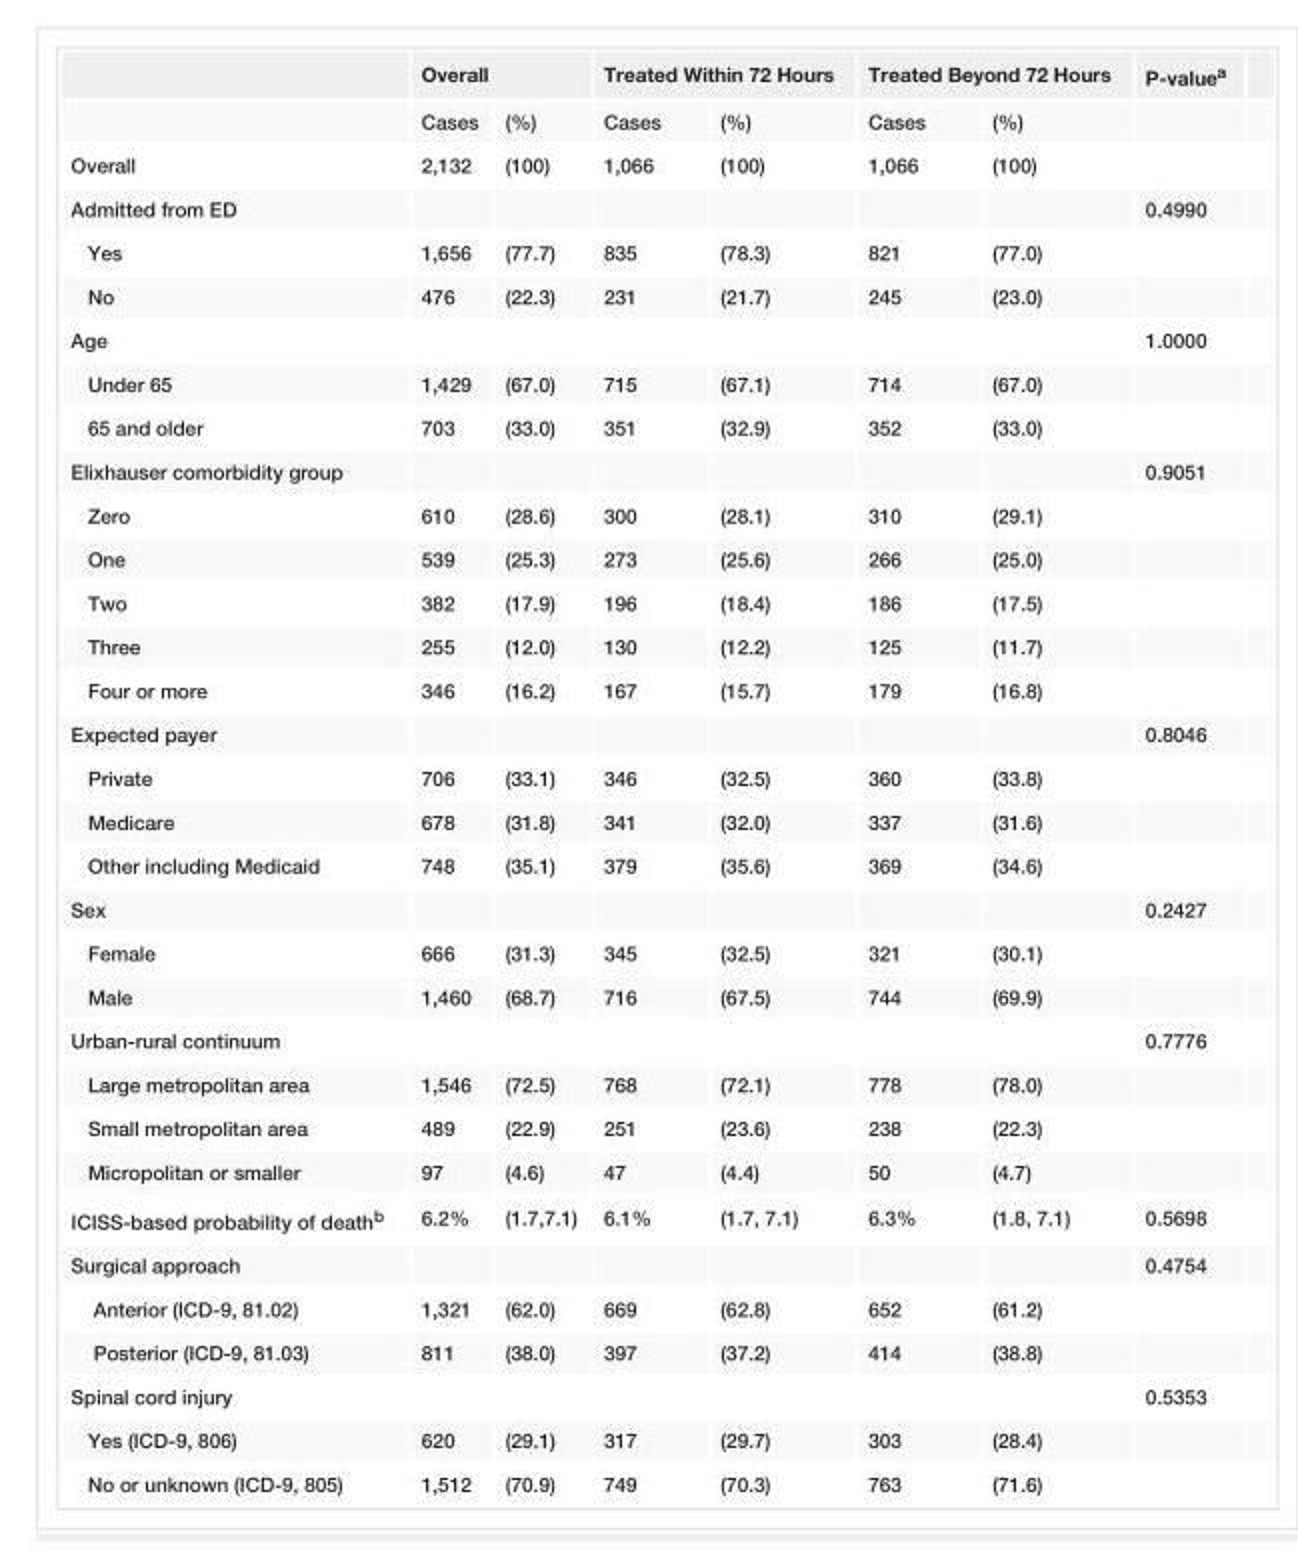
<table><thead><tr><td rowspan="2"></td><td colspan="2">Overall</td><td colspan="2">Treated Within 72 Hours</td><td colspan="2">Treated Beyond 72 Hours</td><td rowspan="2">P-value<sup>a</sup></td></tr><tr><td>Cases</td><td>(%)</td><td>Cases</td><td>(%)</td><td>Cases</td><td>(%)</td></tr></thead><tbody><tr><td>Overall</td><td>2,132</td><td>(100)</td><td>1,066</td><td>(100)</td><td>1,066</td><td>(100)</td><td></td></tr><tr><td>Admitted from ED</td><td></td><td></td><td></td><td></td><td></td><td></td><td>0.4990</td></tr><tr><td>Yes</td><td>1,656</td><td>(77.7)</td><td>835</td><td>(78.3)</td><td>821</td><td>(77.0)</td><td></td></tr><tr><td>No</td><td>476</td><td>(22.3)</td><td>231</td><td>(21.7)</td><td>245</td><td>(23.0)</td><td></td></tr><tr><td>Age</td><td></td><td></td><td></td><td></td><td></td><td></td><td>1.0000</td></tr><tr><td>Under 65</td><td>1,429</td><td>(67.0)</td><td>715</td><td>(67.1)</td><td>714</td><td>(67.0)</td><td></td></tr><tr><td>65 and older</td><td>703</td><td>(33.0)</td><td>351</td><td>(32.9)</td><td>352</td><td>(33.0)</td><td></td></tr><tr><td>Elixhauser comorbidity group</td><td></td><td></td><td></td><td></td><td></td><td></td><td>0.9051</td></tr><tr><td>Zero</td><td>610</td><td>(28.6)</td><td>300</td><td>(28.1)</td><td>310</td><td>(29.1)</td><td></td></tr><tr><td>One</td><td>539</td><td>(25.3)</td><td>273</td><td>(25.6)</td><td>266</td><td>(25.0)</td><td></td></tr><tr><td>Two</td><td>382</td><td>(17.9)</td><td>196</td><td>(18.4)</td><td>186</td><td>(17.5)</td><td></td></tr><tr><td>Three</td><td>255</td><td>(12.0)</td><td>130</td><td>(12.2)</td><td>125</td><td>(11.7)</td><td></td></tr><tr><td>Four or more</td><td>346</td><td>(16.2)</td><td>167</td><td>(15.7)</td><td>179</td><td>(16.8)</td><td></td></tr><tr><td>Expected payer</td><td></td><td></td><td></td><td></td><td></td><td></td><td>0.8046</td></tr><tr><td>Private</td><td>706</td><td>(33.1)</td><td>346</td><td>(32.5)</td><td>360</td><td>(33.8)</td><td></td></tr><tr><td>Medicare</td><td>678</td><td>(31.8)</td><td>341</td><td>(32.0)</td><td>337</td><td>(31.6)</td><td></td></tr><tr><td>Other including Medicaid</td><td>748</td><td>(35.1)</td><td>379</td><td>(35.6)</td><td>369</td><td>(34.6)</td><td></td></tr><tr><td>Sex</td><td></td><td></td><td></td><td></td><td></td><td></td><td>0.2427</td></tr><tr><td>Female</td><td>666</td><td>(31.3)</td><td>345</td><td>(32.5)</td><td>321</td><td>(30.1)</td><td></td></tr><tr><td>Male</td><td>1,460</td><td>(68.7)</td><td>716</td><td>(67.5)</td><td>744</td><td>(69.9)</td><td></td></tr><tr><td>Urban-rural continuum</td><td></td><td></td><td></td><td></td><td></td><td></td><td>0.7776</td></tr><tr><td>Large metropolitan area</td><td>1,546</td><td>(72.5)</td><td>768</td><td>(72.1)</td><td>778</td><td>(78.0)</td><td></td></tr><tr><td>Small metropolitan area</td><td>489</td><td>(22.9)</td><td>251</td><td>(23.6)</td><td>238</td><td>(22.3)</td><td></td></tr><tr><td>Micropolitan or smaller</td><td>97</td><td>(4.6)</td><td>47</td><td>(4.4)</td><td>50</td><td>(4.7)</td><td></td></tr><tr><td>ICISS-based probability of death<sup>b</sup></td><td>6.2%</td><td>(1.7,7.1)</td><td>6.1%</td><td>(1.7, 7.1)</td><td>6.3%</td><td>(1.8, 7.1)</td><td>0.5698</td></tr><tr><td>Surgical approach</td><td></td><td></td><td></td><td></td><td></td><td></td><td>0.4754</td></tr><tr><td>Anterior (ICD-9, 81.02)</td><td>1,321</td><td>(62.0)</td><td>669</td><td>(62.8)</td><td>652</td><td>(61.2)</td><td></td></tr><tr><td>Posterior (ICD-9, 81.03)</td><td>811</td><td>(38.0)</td><td>397</td><td>(37.2)</td><td>414</td><td>(38.8)</td><td></td></tr><tr><td>Spinal cord injury</td><td></td><td></td><td></td><td></td><td></td><td></td><td>0.5353</td></tr><tr><td>Yes (ICD-9, 806)</td><td>620</td><td>(29.1)</td><td>317</td><td>(29.7)</td><td>303</td><td>(28.4)</td><td></td></tr><tr><td>No or unknown (ICD-9, 805)</td><td>1,512</td><td>(70.9)</td><td>749</td><td>(70.3)</td><td>763</td><td>(71.6)</td><td></td></tr></tbody></table>